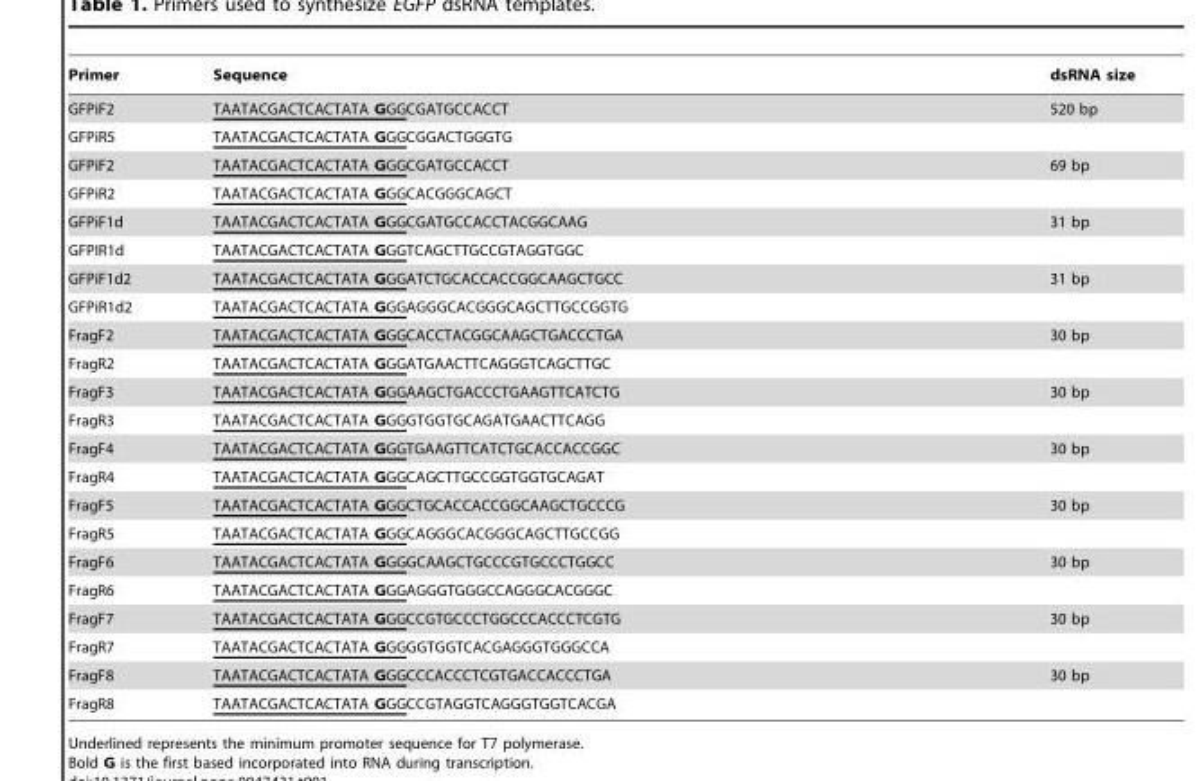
<table><thead><tr><td>Primer</td><td>Sequence</td><td>dsRNA size</td></tr></thead><tbody><tr><td>GFPiF2</td><td>TAATACGACTCACTATA GGGCGATGCCACCT</td><td>520 bp</td></tr><tr><td>GFPiR5</td><td>TAATACGACTCACTATA GGGCGGACTGGGTG</td><td></td></tr><tr><td>GFPiF2</td><td>TAATACGACTCACTATA GGGCGATGCCACCT</td><td>69 bp</td></tr><tr><td>GFPiR2</td><td>TAATACGACTCACTATA GGGCACGGGCAGCT</td><td></td></tr><tr><td>GFPiF1d</td><td>TAATACGACTCACTATA GGGCGATGCCACCTACGGCAAG</td><td>31 bp</td></tr><tr><td>GFPIR1d</td><td>TAATACGACTCACTATA GGGTCAGCTTGCCGTAGGTGGC</td><td></td></tr><tr><td>GFPiF1d2</td><td>TAATACGACTCACTATA GGGATCTGCACCACCGGCAAGCTGCC</td><td>31 bp</td></tr><tr><td>GFPiR1d2</td><td>TAATACGACTCACTATA GGGAGGGCACGGGCAGCTTGCCGGTG</td><td></td></tr><tr><td>FragF2</td><td>TAATACGACTCACTATA GGGCACCTACGGCAAGCTGACCCTGA</td><td>30 bp</td></tr><tr><td>FragR2</td><td>TAATACGACTCACTATA GGGATGAACTTCAGGGTCAGCTTGC</td><td></td></tr><tr><td>FragF3</td><td>TAATACGACTCACTATA GGGAAGCTGACCCTGAAGTTCATCTG</td><td>30 bp</td></tr><tr><td>FragR3</td><td>TAATACGACTCACTATA GGGGTGGTGCAGATGAACTTCAGG</td><td></td></tr><tr><td>FragF4</td><td>TAATACGACTCACTATA GGGTGAAGTTCATCTGCACCACCGGC</td><td>30 bp</td></tr><tr><td>FragR4</td><td>TAATACGACTCACTATA GGGCAGCTTGCCGGTGGTGCAGAT</td><td></td></tr><tr><td>FragF5</td><td>TAATACGACTCACTATA GGGCTGCACCACCGGCAAGCTGCCCG</td><td>30 bp</td></tr><tr><td>FragR5</td><td>TAATACGACTCACTATA GGGCAGGGCACGGGCAGCTTGCCGG</td><td></td></tr><tr><td>FragF6</td><td>TAATACGACTCACTATA GGGGCAAGCTGCCCGTGCCCTGGCC</td><td>30 bp</td></tr><tr><td>FragR6</td><td>TAATACGACTCACTATA GGGAGGGTGGGCCAGGGCACGGGC</td><td></td></tr><tr><td>FragF7</td><td>TAATACGACTCACTATA GGGCCGTGCCCTGGCCCACCCTCGTG</td><td>30 bp</td></tr><tr><td>FragR7</td><td>TAATACGACTCACTATA GGGGGTGGTCACGAGGGTGGGCCA</td><td></td></tr><tr><td>FragF8</td><td>TAATACGACTCACTATA GGGCCCACCCTCGTGACCACCCTGA</td><td>30 bp</td></tr><tr><td>FragR8</td><td>TAATACGACTCACTATA GGGCCGTAGGTCAGGGTGGTCACGA</td><td></td></tr></tbody></table>